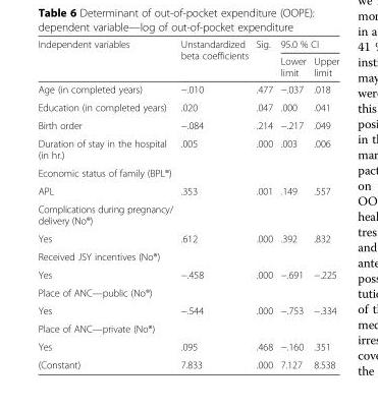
<table><thead><tr><td rowspan="2">Independent variables</td><td rowspan="2">Unstandardized beta coefficients</td><td rowspan="2">Sig.</td><td colspan="2">95.0 % CI</td></tr><tr><td>Lower limit</td><td>Upper limit</td></tr></thead><tbody><tr><td>Age (in completed years)</td><td>−.010</td><td>.477</td><td>−.037</td><td>.018</td></tr><tr><td>Education (in completed years)</td><td>.020</td><td>.047</td><td>.000</td><td>.041</td></tr><tr><td>Birth order</td><td>−.084</td><td>.214</td><td>−.217</td><td>.049</td></tr><tr><td>Duration of stay in the hospital (in hr.)</td><td>.005</td><td>.000</td><td>.003</td><td>.006</td></tr><tr><td colspan="5">Economic status of family (BPL®)</td></tr><tr><td>APL</td><td>.353</td><td>.001</td><td>.149</td><td>.557</td></tr><tr><td colspan="5">Complications during pregnancy/ delivery (No®)</td></tr><tr><td>Yes</td><td>.612</td><td>.000</td><td>.392</td><td>.832</td></tr><tr><td colspan="5">Received JSY incentives (No®)</td></tr><tr><td>Yes</td><td>−.458</td><td>.000</td><td>−.691</td><td>−.225</td></tr><tr><td colspan="5">Place of ANC—public (No®)</td></tr><tr><td>Yes</td><td>−.544</td><td>.000</td><td>−.753</td><td>−.334</td></tr><tr><td colspan="5">Place of ANC—private (No®)</td></tr><tr><td>Yes</td><td>.095</td><td>.468</td><td>−.160</td><td>.351</td></tr><tr><td>(Constant)</td><td>7.833</td><td>.000</td><td>7.127</td><td>8.538</td></tr></tbody></table>